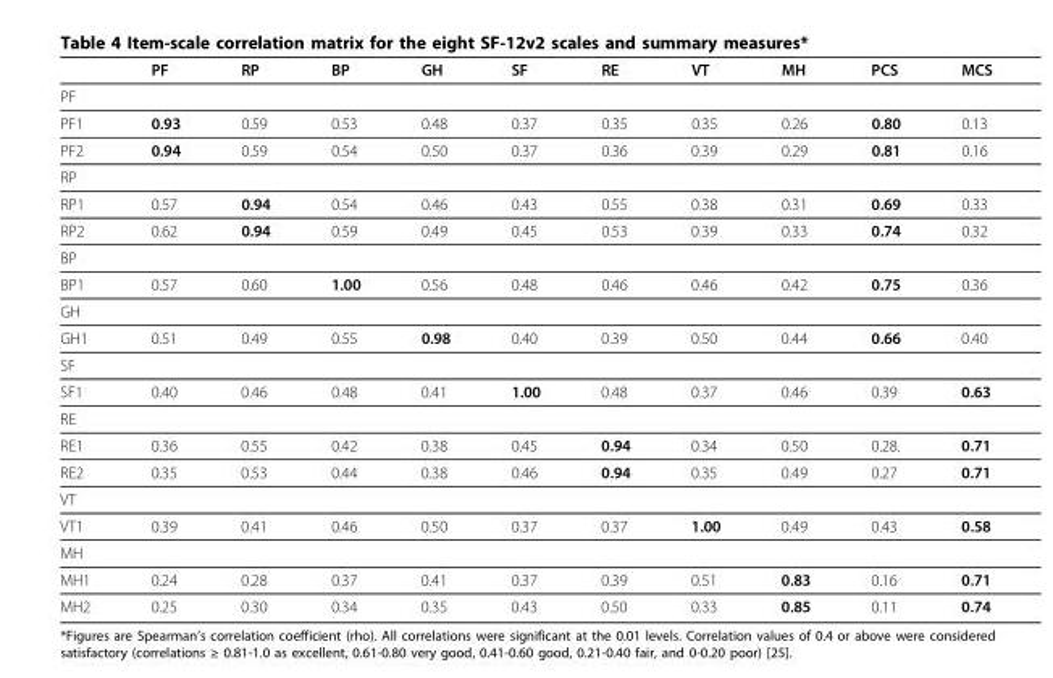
<table><thead><tr><td></td><td>PF</td><td>RP</td><td>BP</td><td>GH</td><td>SF</td><td>RE</td><td>VT</td><td>MH</td><td>PCS</td><td>MCS</td></tr></thead><tbody><tr><td colspan="11">PF</td></tr><tr><td>PF1</td><td>0.93</td><td>0.59</td><td>0.53</td><td>0.48</td><td>0.37</td><td>0.35</td><td>0.35</td><td>0.26</td><td>0.80</td><td>0.13</td></tr><tr><td>PF2</td><td>0.94</td><td>0.59</td><td>0.54</td><td>0.50</td><td>0.37</td><td>0.36</td><td>0.39</td><td>0.29</td><td>0.81</td><td>0.16</td></tr><tr><td colspan="11">RP</td></tr><tr><td>RP1</td><td>0.57</td><td>0.94</td><td>0.54</td><td>0.46</td><td>0.43</td><td>0.55</td><td>0.38</td><td>0.31</td><td>0.69</td><td>0.33</td></tr><tr><td>RP2</td><td>0.62</td><td>0.94</td><td>0.59</td><td>0.49</td><td>0.45</td><td>0.53</td><td>0.39</td><td>0.33</td><td>0.74</td><td>0.32</td></tr><tr><td colspan="11">BP</td></tr><tr><td>BP1</td><td>0.57</td><td>0.60</td><td>1.00</td><td>0.56</td><td>0.48</td><td>0.46</td><td>0.46</td><td>0.42</td><td>0.75</td><td>0.36</td></tr><tr><td colspan="11">GH</td></tr><tr><td>GH1</td><td>0.51</td><td>0.49</td><td>0.55</td><td>0.98</td><td>0.40</td><td>0.39</td><td>0.50</td><td>0.44</td><td>0.66</td><td>0.40</td></tr><tr><td colspan="11">SF</td></tr><tr><td>SF1</td><td>0.40</td><td>0.46</td><td>0.48</td><td>0.41</td><td>1.00</td><td>0.48</td><td>0.37</td><td>0.46</td><td>0.39</td><td>0.63</td></tr><tr><td colspan="11">RE</td></tr><tr><td>RE1</td><td>0.36</td><td>0.55</td><td>0.42</td><td>0.38</td><td>0.45</td><td>0.94</td><td>0.34</td><td>0.50</td><td>0.28.</td><td>0.71</td></tr><tr><td>RE2</td><td>0.35</td><td>0.53</td><td>0.44</td><td>0.38</td><td>0.46</td><td>0.94</td><td>0.35</td><td>0.49</td><td>0.27</td><td>0.71</td></tr><tr><td colspan="11">VT</td></tr><tr><td>VT1</td><td>0.39</td><td>0.41</td><td>0.46</td><td>0.50</td><td>0.37</td><td>0.37</td><td>1.00</td><td>0.49</td><td>0.43</td><td>0.58</td></tr><tr><td colspan="11">MH</td></tr><tr><td>MH1</td><td>0.24</td><td>0.28</td><td>0.37</td><td>0.41</td><td>0.37</td><td>0.39</td><td>0.51</td><td>0.83</td><td>0.16</td><td>0.71</td></tr><tr><td>MH2</td><td>0.25</td><td>0.30</td><td>0.34</td><td>0.35</td><td>0.43</td><td>0.50</td><td>0.33</td><td>0.85</td><td>0.11</td><td>0.74</td></tr></tbody></table>